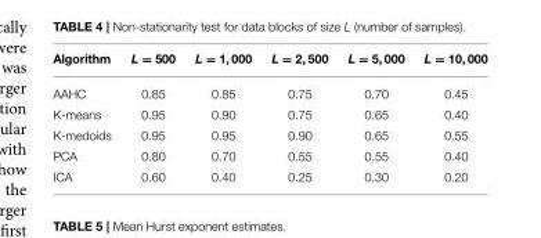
<table><thead><tr><td>Algorithm</td><td>L = 500</td><td>L = 1, 000</td><td>L = 2, 500</td><td>L = 5, 000</td><td>L = 10, 000</td></tr></thead><tbody><tr><td>AAHC</td><td>0.85</td><td>0.85</td><td>0.75</td><td>0.70</td><td>0.45</td></tr><tr><td>K-means</td><td>0.95</td><td>0.90</td><td>0.75</td><td>0.65</td><td>0.40</td></tr><tr><td>K-medoids</td><td>0.95</td><td>0.95</td><td>0.90</td><td>0.65</td><td>0.55</td></tr><tr><td>PCA</td><td>0.80</td><td>0.70</td><td>0.55</td><td>0.55</td><td>0.40</td></tr><tr><td>ICA</td><td>0.60</td><td>0.40</td><td>0.25</td><td>0.30</td><td>0.20</td></tr></tbody></table>